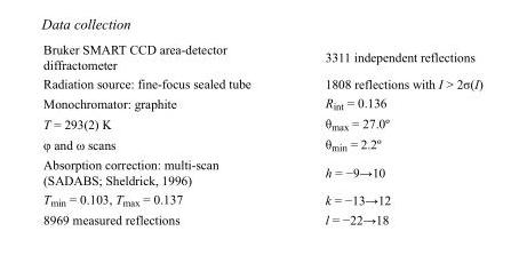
<table><tbody><tr><td>Bruker SMART CCD area-detector diffractometer</td><td>3311 independent reflections</td></tr><tr><td>Radiation source: fine-focus sealed tube</td><td>1808 reflections with I &gt; 2σ(I)</td></tr><tr><td>Monochromator: graphite</td><td>R<sub>int</sub> = 0.136</td></tr><tr><td>T = 293(2) K</td><td>θ<sub>max</sub> = 27.0º</td></tr><tr><td>φ and ω scans</td><td>θ<sub>min</sub> = 2.2º</td></tr><tr><td>Absorption correction: multi-scan (SADABS; Sheldrick, 1996)</td><td>h = −9→10</td></tr><tr><td>T<sub>min</sub> = 0.103, T<sub>max</sub> = 0.137</td><td>k = −13→12</td></tr><tr><td>8969 measured reflections</td><td>l = −22→18</td></tr></tbody></table>